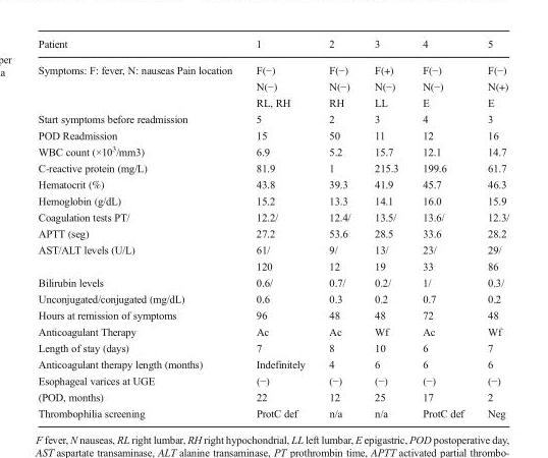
<table><thead><tr><td>Patient</td><td>1</td><td>2</td><td>3</td><td>4</td><td>5</td></tr></thead><tbody><tr><td rowspan="3">Symptoms: F: fever, N: nauseas Pain location</td><td>F(−)</td><td>F(−)</td><td>F(+)</td><td>F(−)</td><td>F(−)</td></tr><tr><td>N(−)</td><td>N(−)</td><td>N(−)</td><td>N(−)</td><td>N(+)</td></tr><tr><td>RL, RH</td><td>RH</td><td>LL</td><td>E</td><td>E</td></tr><tr><td>Start symptoms before readmission</td><td>5</td><td>2</td><td>3</td><td>4</td><td>3</td></tr><tr><td>POD Readmission</td><td>15</td><td>50</td><td>11</td><td>12</td><td>16</td></tr><tr><td>WBC count (×10<sup>3</sup>/mm3)</td><td>6.9</td><td>5.2</td><td>15.7</td><td>12.1</td><td>14.7</td></tr><tr><td>C-reactive protein (mg/L)</td><td>81.9</td><td>1</td><td>215.3</td><td>199.6</td><td>61.7</td></tr><tr><td>Hematocrit (%)</td><td>43.8</td><td>39.3</td><td>41.9</td><td>45.7</td><td>46.3</td></tr><tr><td>Hemoglobin (g/dL)</td><td>15.2</td><td>13.3</td><td>14.1</td><td>16.0</td><td>15.9</td></tr><tr><td>Coagulation tests PT/</td><td>12.2/</td><td>12.4/</td><td>13.5/</td><td>13.6/</td><td>12.3/</td></tr><tr><td>APTT (seg)</td><td>27.2</td><td>53.6</td><td>28.5</td><td>33.6</td><td>28.2</td></tr><tr><td rowspan="2">AST/ALT levels (U/L)</td><td>61/</td><td>9/</td><td>13/</td><td>23/</td><td>29/</td></tr><tr><td>120</td><td>12</td><td>19</td><td>33</td><td>86</td></tr><tr><td>Bilirubin levels</td><td>0.6/</td><td>0.7/</td><td>0.2/</td><td>1/</td><td>0.3/</td></tr><tr><td>Unconjugated/conjugated (mg/dL)</td><td>0.6</td><td>0.3</td><td>0.2</td><td>0.7</td><td>0.2</td></tr><tr><td>Hours at remission of symptoms</td><td>96</td><td>48</td><td>48</td><td>72</td><td>48</td></tr><tr><td>Anticoagulant Therapy</td><td>Ac</td><td>Ac</td><td>Wf</td><td>Ac</td><td>Wf</td></tr><tr><td>Length of stay (days)</td><td>7</td><td>8</td><td>10</td><td>6</td><td>7</td></tr><tr><td>Anticoagulant therapy length (months)</td><td>Indefinitely</td><td>4</td><td>6</td><td>6</td><td>6</td></tr><tr><td>Esophageal varices at UGE</td><td>(−)</td><td>(−)</td><td>(−)</td><td>(−)</td><td>(−)</td></tr><tr><td>(POD, months)</td><td>22</td><td>12</td><td>25</td><td>17</td><td>2</td></tr><tr><td>Thrombophilia screening</td><td>ProtC def</td><td>n/a</td><td>n/a</td><td>ProtC def</td><td>Neg</td></tr></tbody></table>